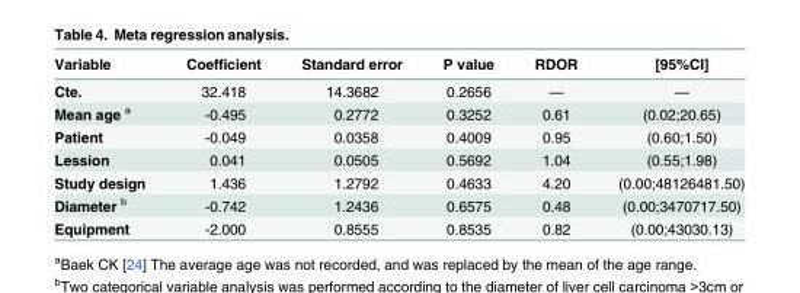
<table><thead><tr><td>Variable</td><td>Coefficient</td><td>Standard error</td><td>P value</td><td>RDOR</td><td>[95%CI]</td></tr></thead><tbody><tr><td>Cte.</td><td>32.418</td><td>14.3682</td><td>0.2656</td><td>—</td><td>—</td></tr><tr><td>Mean age <sup>a</sup></td><td>-0.495</td><td>0.2772</td><td>0.3252</td><td>0.61</td><td>(0.02;20.65)</td></tr><tr><td>Patient</td><td>-0.049</td><td>0.0358</td><td>0.4009</td><td>0.95</td><td>(0.60;1.50)</td></tr><tr><td>Lession</td><td>0.041</td><td>0.0505</td><td>0.5692</td><td>1.04</td><td>(0.55;1.98)</td></tr><tr><td>Study design</td><td>1.436</td><td>1.2792</td><td>0.4633</td><td>4.20</td><td>(0.00;48126481.50)</td></tr><tr><td>Diameter <sup>b</sup></td><td>-0.742</td><td>1.2436</td><td>0.6575</td><td>0.48</td><td>(0.00;3470717.50)</td></tr><tr><td>Equipment</td><td>-2.000</td><td>0.8555</td><td>0.8535</td><td>0.82</td><td>(0.00;43030.13)</td></tr></tbody></table>